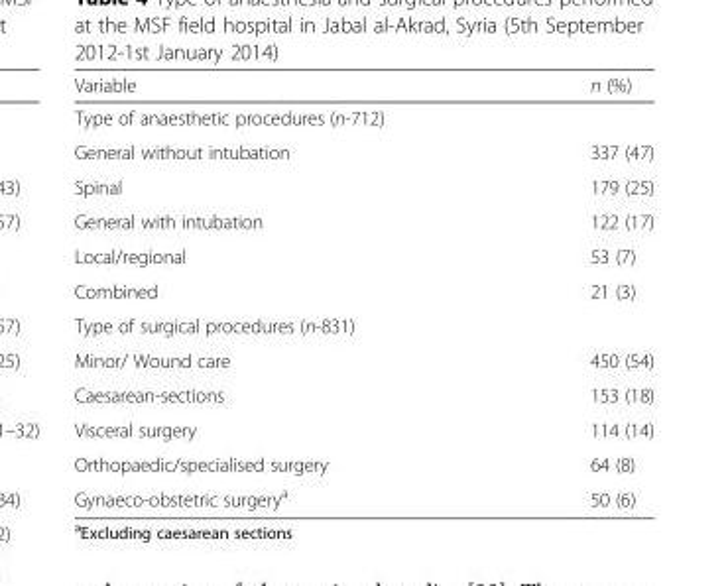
<table><thead><tr><td>Variable</td><td>n (%)</td></tr></thead><tbody><tr><td colspan="2">Type of anaesthetic procedures (n-712)</td></tr><tr><td>General without intubation</td><td>337 (47)</td></tr><tr><td>Spinal</td><td>179 (25)</td></tr><tr><td>General with intubation</td><td>122 (17)</td></tr><tr><td>Local/regional</td><td>53 (7)</td></tr><tr><td>Combined</td><td>21 (3)</td></tr><tr><td colspan="2">Type of surgical procedures (n-831)</td></tr><tr><td>Minor/ Wound care</td><td>450 (54)</td></tr><tr><td>Caesarean-sections</td><td>153 (18)</td></tr><tr><td>Visceral surgery</td><td>114 (14)</td></tr><tr><td>Orthopaedic/specialised surgery</td><td>64 (8)</td></tr><tr><td>Gynaeco-obstetric surgery<sup>a</sup></td><td>50 (6)</td></tr></tbody></table>